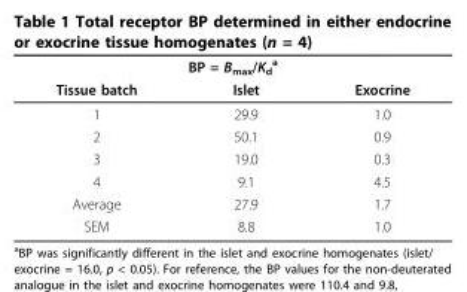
<table><thead><tr><td colspan="3">BP = B<sub>max</sub>/K<sub>d</sub> <sup>a</sup></td></tr><tr><td>Tissue batch</td><td>Islet</td><td>Exocrine</td></tr></thead><tbody><tr><td>1</td><td>29.9</td><td>1.0</td></tr><tr><td>2</td><td>50.1</td><td>0.9</td></tr><tr><td>3</td><td>19.0</td><td>0.3</td></tr><tr><td>4</td><td>9.1</td><td>4.5</td></tr><tr><td>Average</td><td>27.9</td><td>1.7</td></tr><tr><td>SEM</td><td>8.8</td><td>1.0</td></tr></tbody></table>